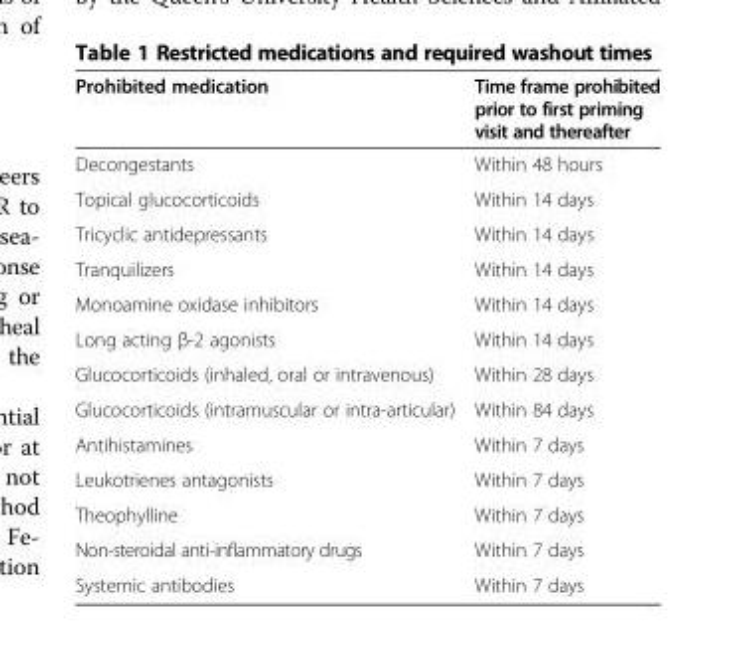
<table><thead><tr><td>Prohibited medication</td><td>Time frame prohibited prior to first priming visit and thereafter</td></tr></thead><tbody><tr><td>Decongestants</td><td>Within 48 hours</td></tr><tr><td>Topical glucocorticoids</td><td>Within 14 days</td></tr><tr><td>Tricyclic antidepressants</td><td>Within 14 days</td></tr><tr><td>Tranquilizers</td><td>Within 14 days</td></tr><tr><td>Monoamine oxidase inhibitors</td><td>Within 14 days</td></tr><tr><td>Long acting β-2 agonists</td><td>Within 14 days</td></tr><tr><td>Glucocorticoids (inhaled, oral or intravenous)</td><td>Within 28 days</td></tr><tr><td>Glucocorticoids (intramuscular or intra-articular)</td><td>Within 84 days</td></tr><tr><td>Antihistamines</td><td>Within 7 days</td></tr><tr><td>Leukotrienes antagonists</td><td>Within 7 days</td></tr><tr><td>Theophylline</td><td>Within 7 days</td></tr><tr><td>Non-steroidal anti-inflammatory drugs</td><td>Within 7 days</td></tr><tr><td>Systemic antibodies</td><td>Within 7 days</td></tr></tbody></table>